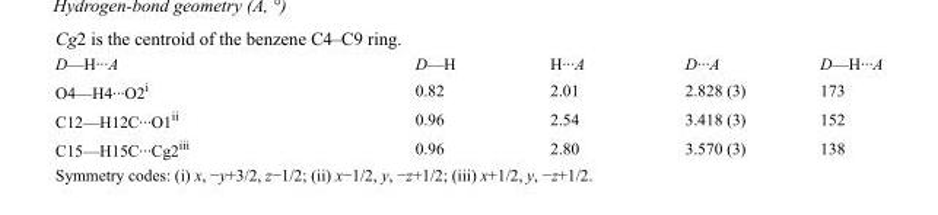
<table><tbody><tr><td>D—H···A</td><td>D—H</td><td>H···A</td><td>D···A</td><td>D—H···A</td></tr><tr><td>O4—H4···O2<sup>i</sup></td><td>0.82</td><td>2.01</td><td>2.828 (3)</td><td>173</td></tr><tr><td>C12—H12C···O1<sup>ii</sup></td><td>0.96</td><td>2.54</td><td>3.418 (3)</td><td>152</td></tr><tr><td>C15—H15C···Cg2<sup>iii</sup></td><td>0.96</td><td>2.80</td><td>3.570 (3)</td><td>138</td></tr></tbody></table>